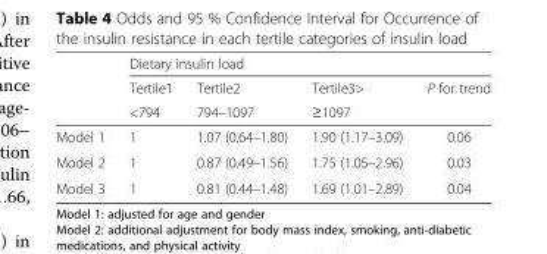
<table><thead><tr><td rowspan="3"></td><td colspan="4">Dietary insulin load</td></tr><tr><td rowspan="2">Tertile1 &lt;794</td><td rowspan="2">Tertile2 794–1097</td><td rowspan="2">Tertile3&gt; ≥1097</td><td rowspan="2">P for trend</td></tr><tr></tr></thead><tbody><tr><td>Model 1</td><td>1</td><td>1.07 (0.64–1.80)</td><td>1.90 (1.17–3.09)</td><td>0.06</td></tr><tr><td>Model 2</td><td>1</td><td>0.87 (0.49–1.56)</td><td>1.75 (1.05–2.96)</td><td>0.03</td></tr><tr><td>Model 3</td><td>1</td><td>0.81 (0.44–1.48)</td><td>1.69 (1.01–2.89)</td><td>0.04</td></tr></tbody></table>